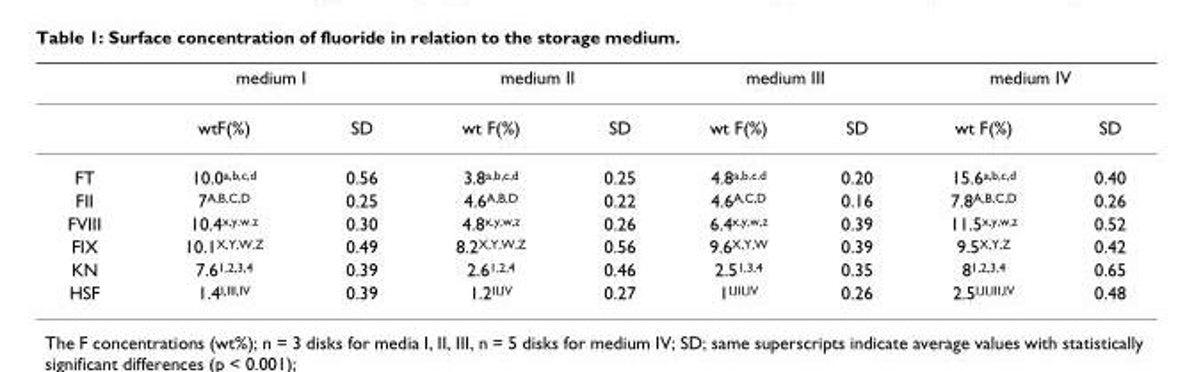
<table><thead><tr><td rowspan="2"></td><td colspan="2">medium I</td><td colspan="2">medium II</td><td colspan="2">medium III</td><td colspan="2">medium IV</td></tr><tr><td>wtF(%)</td><td>SD</td><td>wt F(%)</td><td>SD</td><td>wt F(%)</td><td>SD</td><td>wt F(%)</td><td>SD</td></tr></thead><tbody><tr><td>FT</td><td>10.0<sup>a,b,c,d</sup></td><td>0.56</td><td>3.8<sup>a,b,c,d</sup></td><td>0.25</td><td>4.8<sup>a,b.c.d</sup></td><td>0.20</td><td>15.6<sup>a,b,c,d</sup></td><td>0.40</td></tr><tr><td>FII</td><td>7<sup>A,B,C,D</sup></td><td>0.25</td><td>4.6<sup>A,B,D</sup></td><td>0.22</td><td>4.6<sup>A,C,D</sup></td><td>0.16</td><td>7.8<sup>A,B,C,D</sup></td><td>0.26</td></tr><tr><td>FVIII</td><td>10.4<sup>x,y.w.z</sup></td><td>0.30</td><td>4.8<sup>x,y,w,z</sup></td><td>0.26</td><td>6.4<sup>x,y,w,z</sup></td><td>0.39</td><td>11.5<sup>x,y,w,z</sup></td><td>0.52</td></tr><tr><td>FIX</td><td>10.1<sup>X,Y,W,Z</sup></td><td>0.49</td><td>8.2<sup>X,Y,W,Z</sup></td><td>0.56</td><td>9.6<sup>X,Y,W</sup></td><td>0.39</td><td>9.5<sup>X,Y,Z</sup></td><td>0.42</td></tr><tr><td>KN</td><td>7.6<sup>1,2,3,4</sup></td><td>0.39</td><td>2.6<sup>1,2,4</sup></td><td>0.46</td><td>2.5<sup>1,3,4</sup></td><td>0.35</td><td>8<sup>1,2,3,4</sup></td><td>0.65</td></tr><tr><td>HSF</td><td>1.4<sup>I,III,IV</sup></td><td>0.39</td><td>1.2<sup>II,IV</sup></td><td>0.27</td><td>1<sup>I,III,IV</sup></td><td>0.26</td><td>2.5<sup>I,II,III,IV</sup></td><td>0.48</td></tr></tbody></table>